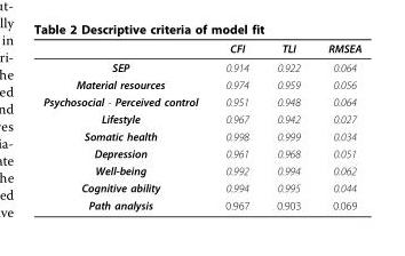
<table><thead><tr><td></td><td>CFI</td><td>TLI</td><td>RMSEA</td></tr></thead><tbody><tr><td>SEP</td><td>0.914</td><td>0.922</td><td>0.064</td></tr><tr><td>Material resources</td><td>0.974</td><td>0.959</td><td>0.056</td></tr><tr><td>Psychosocial - Perceived control</td><td>0.951</td><td>0.948</td><td>0.064</td></tr><tr><td>Lifestyle</td><td>0.967</td><td>0.942</td><td>0.027</td></tr><tr><td>Somatic health</td><td>0.998</td><td>0.999</td><td>0.034</td></tr><tr><td>Depression</td><td>0.961</td><td>0.968</td><td>0.051</td></tr><tr><td>Well-being</td><td>0.992</td><td>0.994</td><td>0.062</td></tr><tr><td>Cognitive ability</td><td>0.994</td><td>0.995</td><td>0.044</td></tr><tr><td>Path analysis</td><td>0.967</td><td>0.903</td><td>0.069</td></tr></tbody></table>